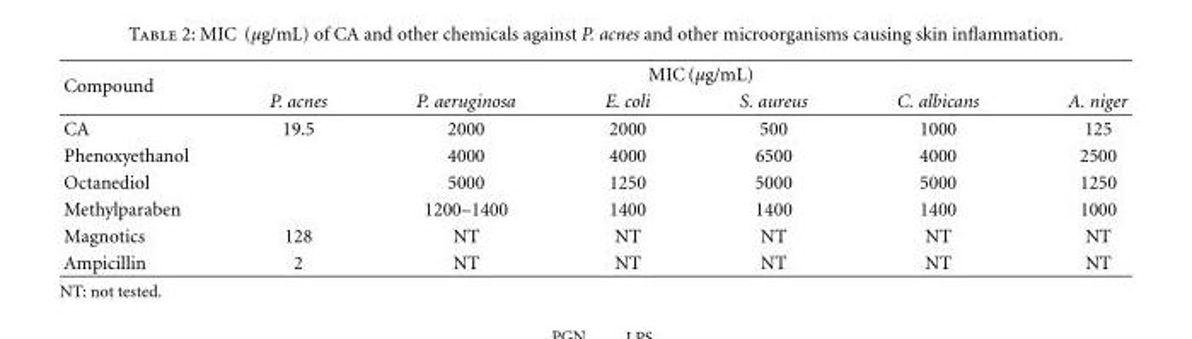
<table><thead><tr><td rowspan="2">Compound</td><td colspan="6">MIC (μg/mL)</td></tr><tr><td>P. acnes</td><td>P. aeruginosa</td><td>E. coli</td><td>S. aureus</td><td>C. albicans</td><td>A. niger</td></tr></thead><tbody><tr><td>CA</td><td>19.5</td><td>2000</td><td>2000</td><td>500</td><td>1000</td><td>125</td></tr><tr><td>Phenoxyethanol</td><td></td><td>4000</td><td>4000</td><td>6500</td><td>4000</td><td>2500</td></tr><tr><td>Octanediol</td><td></td><td>5000</td><td>1250</td><td>5000</td><td>5000</td><td>1250</td></tr><tr><td>Methylparaben</td><td></td><td>1200–1400</td><td>1400</td><td>1400</td><td>1400</td><td>1000</td></tr><tr><td>Magnotics</td><td>128</td><td>NT</td><td>NT</td><td>NT</td><td>NT</td><td>NT</td></tr><tr><td>Ampicillin</td><td>2</td><td>NT</td><td>NT</td><td>NT</td><td>NT</td><td>NT</td></tr></tbody></table>